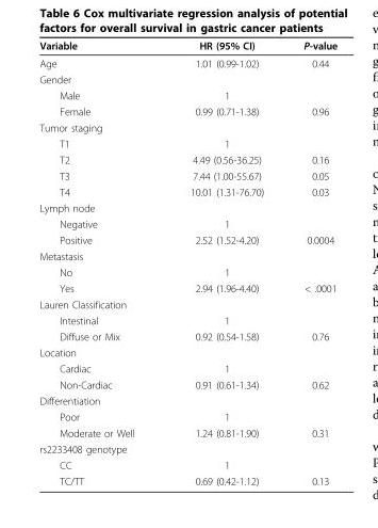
<table><thead><tr><td>Variable</td><td>HR (95% CI)</td><td>P-value</td></tr></thead><tbody><tr><td>Age</td><td>1.01 (0.99-1.02)</td><td>0.44</td></tr><tr><td colspan="3">Gender</td></tr><tr><td>Male</td><td>1</td><td></td></tr><tr><td>Female</td><td>0.99 (0.71-1.38)</td><td>0.96</td></tr><tr><td colspan="3">Tumor staging</td></tr><tr><td>T1</td><td>1</td><td></td></tr><tr><td>T2</td><td>4.49 (0.56-36.25)</td><td>0.16</td></tr><tr><td>T3</td><td>7.44 (1.00-55.67)</td><td>0.05</td></tr><tr><td>T4</td><td>10.01 (1.31-76.70)</td><td>0.03</td></tr><tr><td colspan="3">Lymph node</td></tr><tr><td>Negative</td><td>1</td><td></td></tr><tr><td>Positive</td><td>2.52 (1.52-4.20)</td><td>0.0004</td></tr><tr><td colspan="3">Metastasis</td></tr><tr><td>No</td><td>1</td><td></td></tr><tr><td>Yes</td><td>2.94 (1.96-4.40)</td><td>&lt; .0001</td></tr><tr><td colspan="3">Lauren Classification</td></tr><tr><td>Intestinal</td><td>1</td><td></td></tr><tr><td>Diffuse or Mix</td><td>0.92 (0.54-1.58)</td><td>0.76</td></tr><tr><td colspan="3">Location</td></tr><tr><td>Cardiac</td><td>1</td><td></td></tr><tr><td>Non-Cardiac</td><td>0.91 (0.61-1.34)</td><td>0.62</td></tr><tr><td colspan="3">Differentiation</td></tr><tr><td>Poor</td><td>1</td><td></td></tr><tr><td>Moderate or Well</td><td>1.24 (0.81-1.90)</td><td>0.31</td></tr><tr><td colspan="3">rs2233408 genotype</td></tr><tr><td>CC</td><td>1</td><td></td></tr><tr><td>TC/TT</td><td>0.69 (0.42-1.12)</td><td>0.13</td></tr></tbody></table>